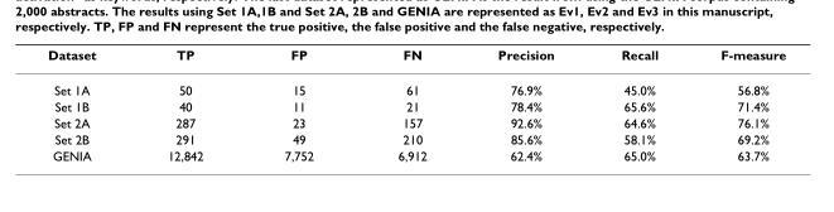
<table><thead><tr><td>Dataset</td><td>TP</td><td>FP</td><td>FN</td><td>Precision</td><td>Recall</td><td>F-measure</td></tr></thead><tbody><tr><td>Set 1A</td><td>50</td><td>15</td><td>61</td><td>76.9%</td><td>45.0%</td><td>56.8%</td></tr><tr><td>Set 1B</td><td>40</td><td>11</td><td>21</td><td>78.4%</td><td>65.6%</td><td>71.4%</td></tr><tr><td>Set 2A</td><td>287</td><td>23</td><td>157</td><td>92.6%</td><td>64.6%</td><td>76.1%</td></tr><tr><td>Set 2B</td><td>291</td><td>49</td><td>210</td><td>85.6%</td><td>58.1%</td><td>69.2%</td></tr><tr><td>GENIA</td><td>12,842</td><td>7,752</td><td>6,912</td><td>62.4%</td><td>65.0%</td><td>63.7%</td></tr></tbody></table>